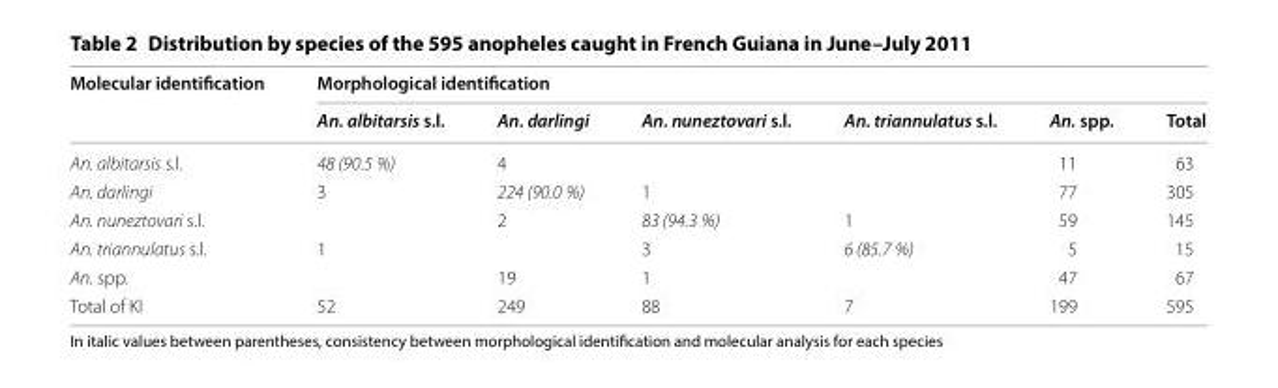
<table><thead><tr><td rowspan="2">Molecular identification</td><td colspan="6">Morphological identification</td></tr><tr><td>An. albitarsis s.l.</td><td>An. darlingi</td><td>An. nuneztovari s.l.</td><td>An. triannulatus s.l.</td><td>An. spp.</td><td>Total</td></tr></thead><tbody><tr><td>An. albitarsis s.l.</td><td>48 (90.5 %)</td><td>4</td><td></td><td></td><td>11</td><td>63</td></tr><tr><td>An. darlingi</td><td>3</td><td>224 (90.0 %)</td><td>1</td><td></td><td>77</td><td>305</td></tr><tr><td>An. nuneztovari s.l.</td><td></td><td>2</td><td>83 (94.3 %)</td><td>1</td><td>59</td><td>145</td></tr><tr><td>An. triannulatus s.l.</td><td>1</td><td></td><td>3</td><td>6 (85.7 %)</td><td>5</td><td>15</td></tr><tr><td>An. spp.</td><td></td><td>19</td><td>1</td><td></td><td>47</td><td>67</td></tr><tr><td>Total of KI</td><td>52</td><td>249</td><td>88</td><td>7</td><td>199</td><td>595</td></tr></tbody></table>